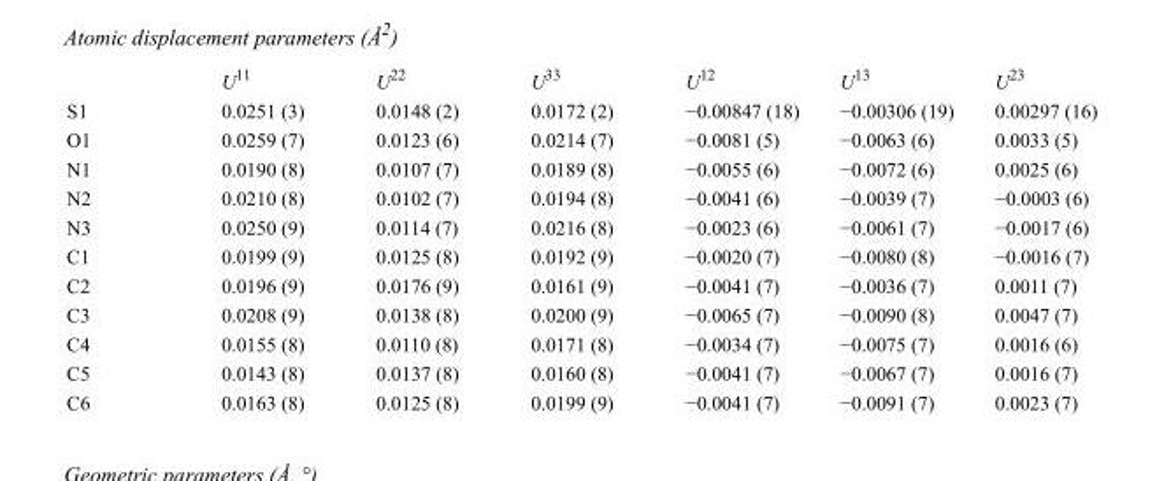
<table><thead><tr><td></td><td>U<sup>11</sup></td><td>U<sup>22</sup></td><td>U<sup>33</sup></td><td>U<sup>12</sup></td><td>U<sup>13</sup></td><td>U<sup>23</sup></td></tr></thead><tbody><tr><td>S1</td><td>0.0251 (3)</td><td>0.0148 (2)</td><td>0.0172 (2)</td><td>−0.00847 (18)</td><td>−0.00306 (19)</td><td>0.00297 (16)</td></tr><tr><td>O1</td><td>0.0259 (7)</td><td>0.0123 (6)</td><td>0.0214 (7)</td><td>−0.0081 (5)</td><td>−0.0063 (6)</td><td>0.0033 (5)</td></tr><tr><td>N1</td><td>0.0190 (8)</td><td>0.0107 (7)</td><td>0.0189 (8)</td><td>−0.0055 (6)</td><td>−0.0072 (6)</td><td>0.0025 (6)</td></tr><tr><td>N2</td><td>0.0210 (8)</td><td>0.0102 (7)</td><td>0.0194 (8)</td><td>−0.0041 (6)</td><td>−0.0039 (7)</td><td>−0.0003 (6)</td></tr><tr><td>N3</td><td>0.0250 (9)</td><td>0.0114 (7)</td><td>0.0216 (8)</td><td>−0.0023 (6)</td><td>−0.0061 (7)</td><td>−0.0017 (6)</td></tr><tr><td>C1</td><td>0.0199 (9)</td><td>0.0125 (8)</td><td>0.0192 (9)</td><td>−0.0020 (7)</td><td>−0.0080 (8)</td><td>−0.0016 (7)</td></tr><tr><td>C2</td><td>0.0196 (9)</td><td>0.0176 (9)</td><td>0.0161 (9)</td><td>−0.0041 (7)</td><td>−0.0036 (7)</td><td>0.0011 (7)</td></tr><tr><td>C3</td><td>0.0208 (9)</td><td>0.0138 (8)</td><td>0.0200 (9)</td><td>−0.0065 (7)</td><td>−0.0090 (8)</td><td>0.0047 (7)</td></tr><tr><td>C4</td><td>0.0155 (8)</td><td>0.0110 (8)</td><td>0.0171 (8)</td><td>−0.0034 (7)</td><td>−0.0075 (7)</td><td>0.0016 (6)</td></tr><tr><td>C5</td><td>0.0143 (8)</td><td>0.0137 (8)</td><td>0.0160 (8)</td><td>−0.0041 (7)</td><td>−0.0067 (7)</td><td>0.0016 (7)</td></tr><tr><td>C6</td><td>0.0163 (8)</td><td>0.0125 (8)</td><td>0.0199 (9)</td><td>−0.0041 (7)</td><td>−0.0091 (7)</td><td>0.0023 (7)</td></tr></tbody></table>